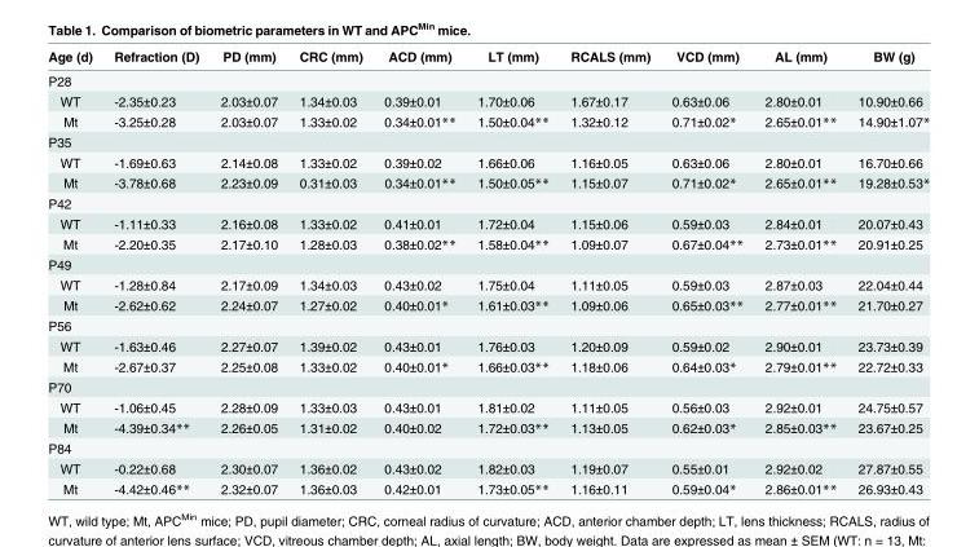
<table><thead><tr><td>Age (d)</td><td>Refraction (D)</td><td>PD (mm)</td><td>CRC (mm)</td><td>ACD (mm)</td><td>LT (mm)</td><td>RCALS (mm)</td><td>VCD (mm)</td><td>AL (mm)</td><td>BW (g)</td></tr></thead><tbody><tr><td colspan="10">P28</td></tr><tr><td>WT</td><td>-2.35±0.23</td><td>2.03±0.07</td><td>1.34±0.03</td><td>0.39±0.01</td><td>1.70±0.06</td><td>1.67±0.17</td><td>0.63±0.06</td><td>2.80±0.01</td><td>10.90±0.66</td></tr><tr><td>Mt</td><td>-3.25±0.28</td><td>2.03±0.07</td><td>1.33±0.02</td><td>0.34±0.01**</td><td>1.50±0.04**</td><td>1.32±0.12</td><td>0.71±0.02*</td><td>2.65±0.01**</td><td>14.90±1.07*</td></tr><tr><td colspan="10">P35</td></tr><tr><td>WT</td><td>-1.69±0.63</td><td>2.14±0.08</td><td>1.33±0.02</td><td>0.39±0.02</td><td>1.66±0.06</td><td>1.16±0.05</td><td>0.63±0.06</td><td>2.80±0.01</td><td>16.70±0.66</td></tr><tr><td>Mt</td><td>-3.78±0.68</td><td>2.23±0.09</td><td>0.31±0.03</td><td>0.34±0.01**</td><td>1.50±0.05**</td><td>1.15±0.07</td><td>0.71±0.02*</td><td>2.65±0.01**</td><td>19.28±0.53*</td></tr><tr><td colspan="10">P42</td></tr><tr><td>WT</td><td>-1.11±0.33</td><td>2.16±0.08</td><td>1.33±0.02</td><td>0.41±0.01</td><td>1.72±0.04</td><td>1.15±0.06</td><td>0.59±0.03</td><td>2.84±0.01</td><td>20.07±0.43</td></tr><tr><td>Mt</td><td>-2.20±0.35</td><td>2.17±0.10</td><td>1.28±0.03</td><td>0.38±0.02**</td><td>1.58±0.04**</td><td>1.09±0.07</td><td>0.67±0.04**</td><td>2.73±0.01**</td><td>20.91±0.25</td></tr><tr><td colspan="10">P49</td></tr><tr><td>WT</td><td>-1.28±0.84</td><td>2.17±0.09</td><td>1.34±0.03</td><td>0.43±0.02</td><td>1.75±0.04</td><td>1.11±0.05</td><td>0.59±0.03</td><td>2.87±0.03</td><td>22.04±0.44</td></tr><tr><td>Mt</td><td>-2.62±0.62</td><td>2.24±0.07</td><td>1.27±0.02</td><td>0.40±0.01*</td><td>1.61±0.03**</td><td>1.09±0.06</td><td>0.65±0.03**</td><td>2.77±0.01**</td><td>21.70±0.27</td></tr><tr><td colspan="10">P56</td></tr><tr><td>WT</td><td>-1.63±0.46</td><td>2.27±0.07</td><td>1.39±0.02</td><td>0.43±0.01</td><td>1.76±0.03</td><td>1.20±0.09</td><td>0.59±0.02</td><td>2.90±0.01</td><td>23.73±0.39</td></tr><tr><td>Mt</td><td>-2.67±0.37</td><td>2.25±0.08</td><td>1.33±0.02</td><td>0.40±0.01*</td><td>1.66±0.03**</td><td>1.18±0.06</td><td>0.64±0.03*</td><td>2.79±0.01**</td><td>22.72±0.33</td></tr><tr><td colspan="10">P70</td></tr><tr><td>WT</td><td>-1.06±0.45</td><td>2.28±0.09</td><td>1.33±0.03</td><td>0.43±0.01</td><td>1.81±0.02</td><td>1.11±0.05</td><td>0.56±0.03</td><td>2.92±0.01</td><td>24.75±0.57</td></tr><tr><td>Mt</td><td>-4.39±0.34**</td><td>2.26±0.05</td><td>1.31±0.02</td><td>0.40±0.02</td><td>1.72±0.03**</td><td>1.13±0.05</td><td>0.62±0.03*</td><td>2.85±0.03**</td><td>23.67±0.25</td></tr><tr><td colspan="10">P84</td></tr><tr><td>WT</td><td>-0.22±0.68</td><td>2.30±0.07</td><td>1.36±0.02</td><td>0.43±0.02</td><td>1.82±0.03</td><td>1.19±0.07</td><td>0.55±0.01</td><td>2.92±0.02</td><td>27.87±0.55</td></tr><tr><td>Mt</td><td>-4.42±0.46**</td><td>2.32±0.07</td><td>1.36±0.03</td><td>0.42±0.01</td><td>1.73±0.05**</td><td>1.16±0.11</td><td>0.59±0.04*</td><td>2.86±0.01**</td><td>26.93±0.43</td></tr></tbody></table>